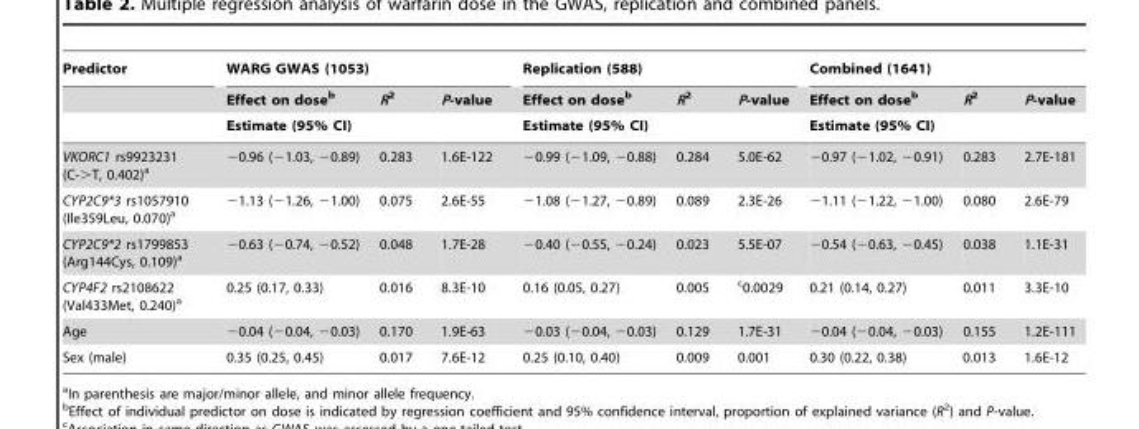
<table><thead><tr><td rowspan="3">Predictor</td><td colspan="3">WARG GWAS (1053)</td><td colspan="3">Replication (588)</td><td colspan="3">Combined (1641)</td></tr><tr><td rowspan="2">Effect on dose<sup>b</sup> Estimate (95% CI)</td><td rowspan="2">R<sup>2</sup></td><td rowspan="2">P-value</td><td rowspan="2">Effect on dose<sup>b</sup> Estimate (95% CI)</td><td rowspan="2">R<sup>2</sup></td><td rowspan="2">P-value</td><td rowspan="2">Effect on dose<sup>b</sup> Estimate (95% CI)</td><td rowspan="2">R<sup>2</sup></td><td rowspan="2">P-value</td></tr><tr></tr></thead><tbody><tr><td>VKORC1 rs9923231 (C-&gt;T, 0.402)<sup>a</sup></td><td>−0.96 (−1.03, −0.89)</td><td>0.283</td><td>1.6E-122</td><td>−0.99 (−1.09, −0.88)</td><td>0.284</td><td>5.0E-62</td><td>−0.97 (−1.02, −0.91)</td><td>0.283</td><td>2.7E-181</td></tr><tr><td>CYP2C9*3 rs1057910 (Ile359Leu, 0.070)<sup>a</sup></td><td>−1.13 (−1.26, −1.00)</td><td>0.075</td><td>2.6E-55</td><td>−1.08 (−1.27, −0.89)</td><td>0.089</td><td>2.3E-26</td><td>−1.11 (−1.22, −1.00)</td><td>0.080</td><td>2.6E-79</td></tr><tr><td>CYP2C9*2 rs1799853 (Arg144Cys, 0.109)<sup>a</sup></td><td>−0.63 (−0.74, −0.52)</td><td>0.048</td><td>1.7E-28</td><td>−0.40 (−0.55, −0.24)</td><td>0.023</td><td>5.5E-07</td><td>−0.54 (−0.63, −0.45)</td><td>0.038</td><td>1.1E-31</td></tr><tr><td>CYP4F2 rs2108622 (Val433Met, 0.240)<sup>a</sup></td><td>0.25 (0.17, 0.33)</td><td>0.016</td><td>8.3E-10</td><td>0.16 (0.05, 0.27)</td><td>0.005</td><td>c0.0029</td><td>0.21 (0.14, 0.27)</td><td>0.011</td><td>3.3E-10</td></tr><tr><td>Age</td><td>−0.04 (−0.04, −0.03)</td><td>0.170</td><td>1.9E-63</td><td>−0.03 (−0.04, −0.03)</td><td>0.129</td><td>1.7E-31</td><td>−0.04 (−0.04, −0.03)</td><td>0.155</td><td>1.2E-111</td></tr><tr><td>Sex (male)</td><td>0.35 (0.25, 0.45)</td><td>0.017</td><td>7.6E-12</td><td>0.25 (0.10, 0.40)</td><td>0.009</td><td>0.001</td><td>0.30 (0.22, 0.38)</td><td>0.013</td><td>1.6E-12</td></tr></tbody></table>